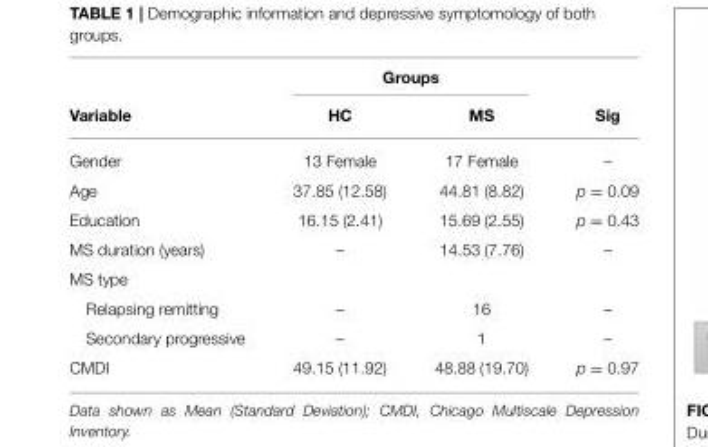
<table><thead><tr><td rowspan="2">Variable</td><td colspan="2">Groups</td><td rowspan="2">Sig</td></tr><tr><td>HC</td><td>MS</td></tr></thead><tbody><tr><td>Gender</td><td>13 Female</td><td>17 Female</td><td>–</td></tr><tr><td>Age</td><td>37.85 (12.58)</td><td>44.81 (8.82)</td><td>p = 0.09</td></tr><tr><td>Education</td><td>16.15 (2.41)</td><td>15.69 (2.55)</td><td>p = 0.43</td></tr><tr><td>MS duration (years)</td><td>–</td><td>14.53 (7.76)</td><td>–</td></tr><tr><td colspan="4">MS type</td></tr><tr><td>Relapsing remitting</td><td>–</td><td>16</td><td>–</td></tr><tr><td>Secondary progressive</td><td>–</td><td>1</td><td>–</td></tr><tr><td>CMDI</td><td>49.15 (11.92)</td><td>48.88 (19.70)</td><td>p = 0.97</td></tr></tbody></table>